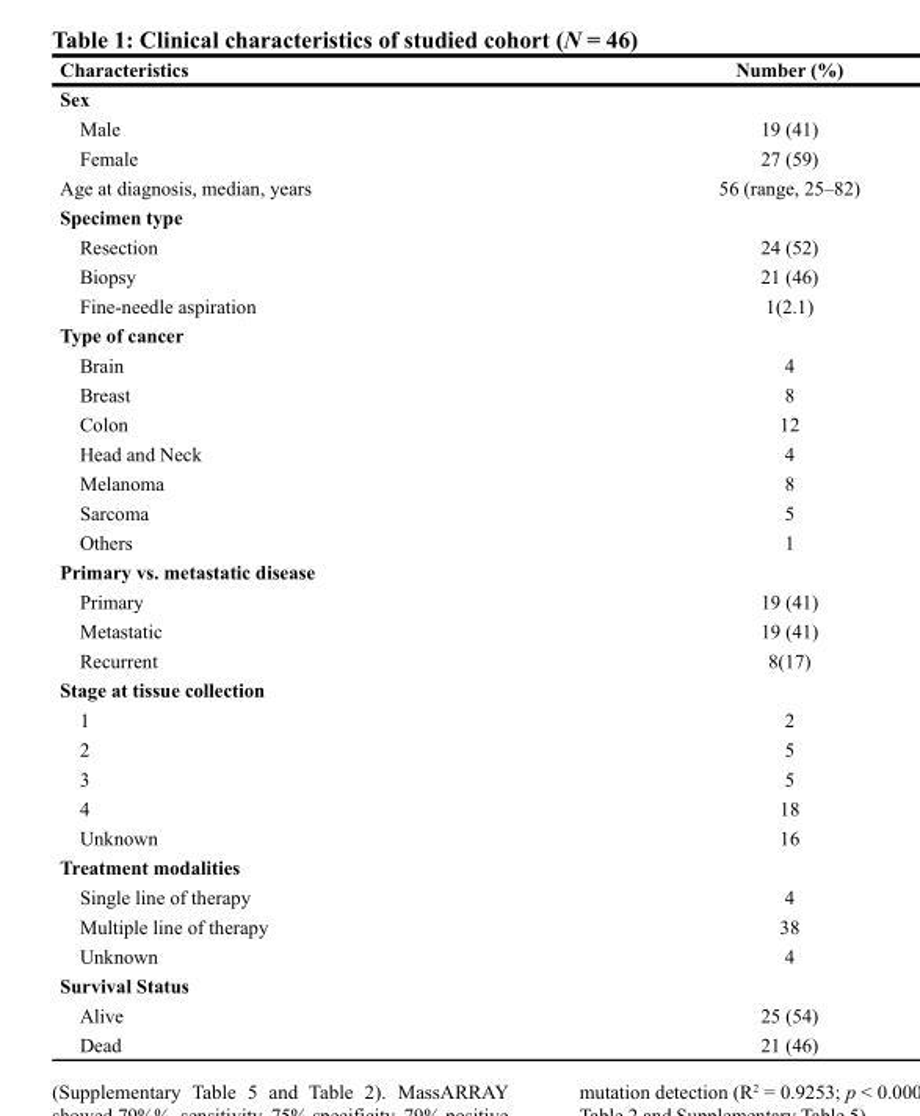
<table><thead><tr><td>Characteristics</td><td>Number (%)</td></tr></thead><tbody><tr><td colspan="2">Sex</td></tr><tr><td>Male</td><td>19 (41)</td></tr><tr><td>Female</td><td>27 (59)</td></tr><tr><td>Age at diagnosis, median, years</td><td>56 (range, 25–82)</td></tr><tr><td colspan="2">Specimen type</td></tr><tr><td>Resection</td><td>24 (52)</td></tr><tr><td>Biopsy</td><td>21 (46)</td></tr><tr><td>Fine-needle aspiration</td><td>1(2.1)</td></tr><tr><td colspan="2">Type of cancer</td></tr><tr><td>Brain</td><td>4</td></tr><tr><td>Breast</td><td>8</td></tr><tr><td>Colon</td><td>12</td></tr><tr><td>Head and Neck</td><td>4</td></tr><tr><td>Melanoma</td><td>8</td></tr><tr><td>Sarcoma</td><td>5</td></tr><tr><td>Others</td><td>1</td></tr><tr><td colspan="2">Primary vs. metastatic disease</td></tr><tr><td>Primary</td><td>19 (41)</td></tr><tr><td>Metastatic</td><td>19 (41)</td></tr><tr><td>Recurrent</td><td>8(17)</td></tr><tr><td colspan="2">Stage at tissue collection</td></tr><tr><td>1</td><td>2</td></tr><tr><td>2</td><td>5</td></tr><tr><td>3</td><td>5</td></tr><tr><td>4</td><td>18</td></tr><tr><td>Unknown</td><td>16</td></tr><tr><td colspan="2">Treatment modalities</td></tr><tr><td>Single line of therapy</td><td>4</td></tr><tr><td>Multiple line of therapy</td><td>38</td></tr><tr><td>Unknown</td><td>4</td></tr><tr><td colspan="2">Survival Status</td></tr><tr><td>Alive</td><td>25 (54)</td></tr><tr><td>Dead</td><td>21 (46)</td></tr></tbody></table>